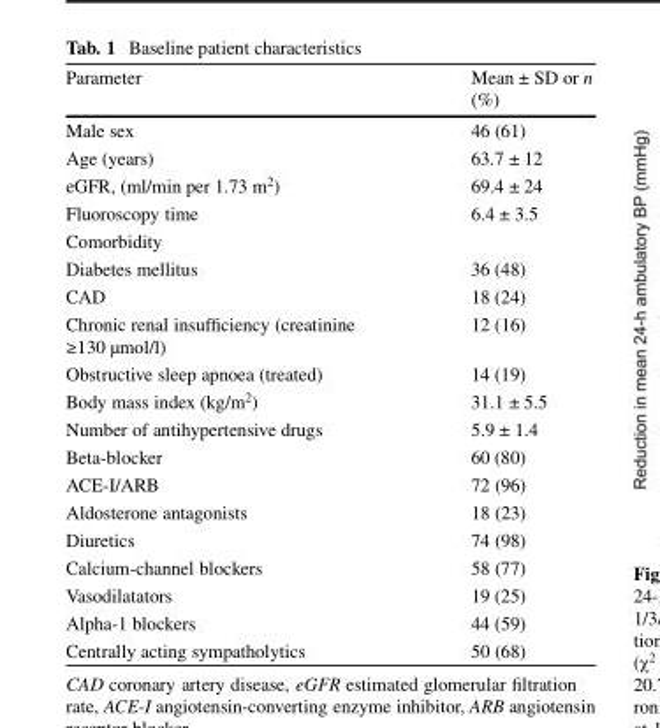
<table><thead><tr><td>Parameter</td><td>Mean ± SD or n (%)</td></tr></thead><tbody><tr><td>Male sex</td><td>46 (61)</td></tr><tr><td>Age (years)</td><td>63.7 ± 12</td></tr><tr><td>eGFR, (ml/min per 1.73 m<sup>2</sup>)</td><td>69.4 ± 24</td></tr><tr><td>Fluoroscopy time</td><td>6.4 ± 3.5</td></tr><tr><td colspan="2">Comorbidity</td></tr><tr><td>Diabetes mellitus</td><td>36 (48)</td></tr><tr><td>CAD</td><td>18 (24)</td></tr><tr><td>Chronic renal insufficiency (creatinine ≥130 µmol/l)</td><td>12 (16)</td></tr><tr><td>Obstructive sleep apnoea (treated)</td><td>14 (19)</td></tr><tr><td>Body mass index (kg/m<sup>2</sup>)</td><td>31.1 ± 5.5</td></tr><tr><td>Number of antihypertensive drugs</td><td>5.9 ± 1.4</td></tr><tr><td>Beta-blocker</td><td>60 (80)</td></tr><tr><td>ACE-I/ARB</td><td>72 (96)</td></tr><tr><td>Aldosterone antagonists</td><td>18 (23)</td></tr><tr><td>Diuretics</td><td>74 (98)</td></tr><tr><td>Calcium-channel blockers</td><td>58 (77)</td></tr><tr><td>Vasodilatators</td><td>19 (25)</td></tr><tr><td>Alpha-1 blockers</td><td>44 (59)</td></tr><tr><td>Centrally acting sympatholytics</td><td>50 (68)</td></tr></tbody></table>